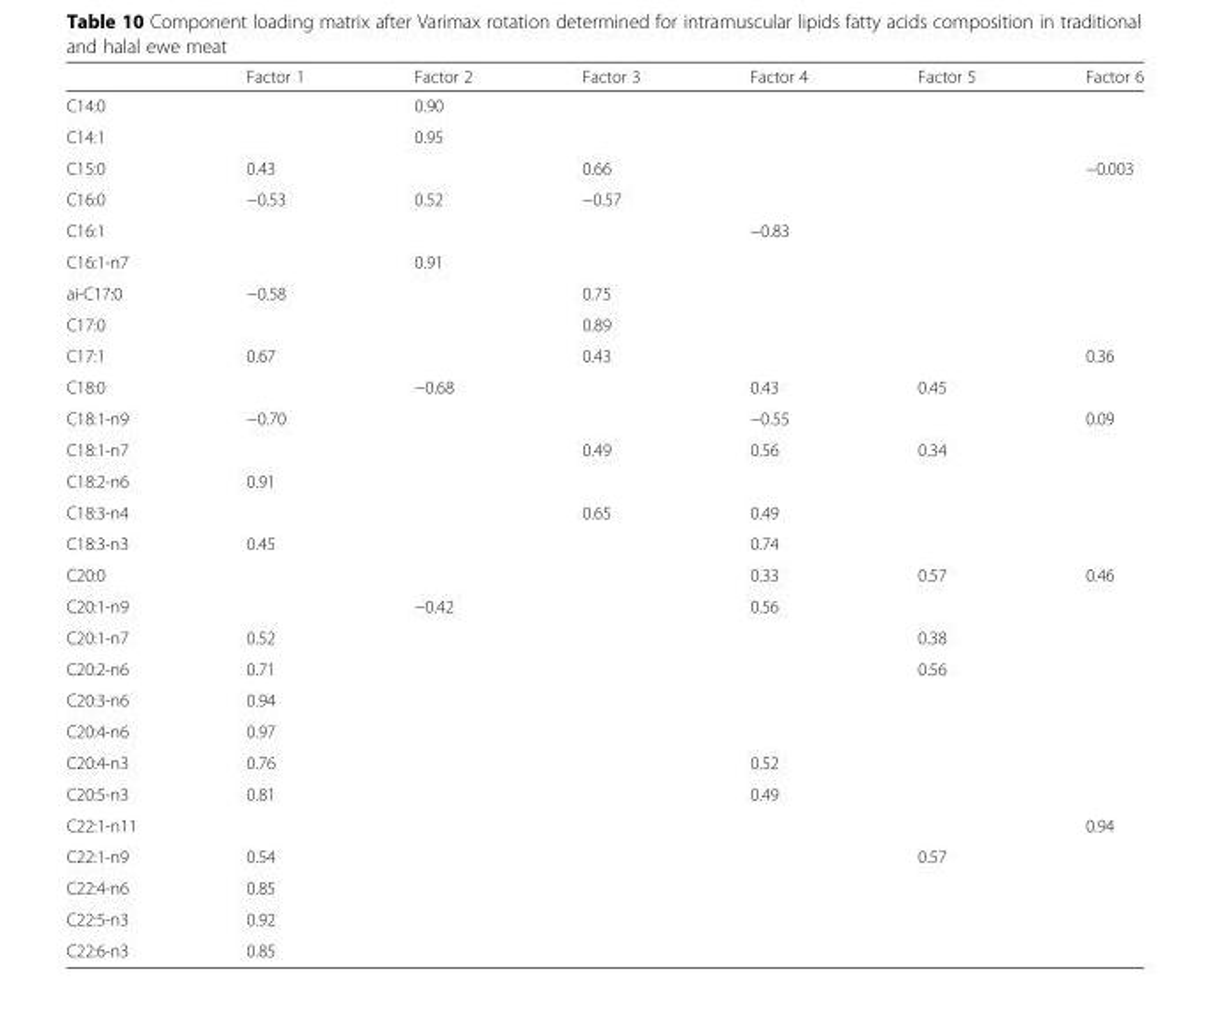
<table><thead><tr><td></td><td>Factor 1</td><td>Factor 2</td><td>Factor 3</td><td>Factor 4</td><td>Factor 5</td><td>Factor 6</td></tr></thead><tbody><tr><td>C14:0</td><td></td><td>0.90</td><td></td><td></td><td></td><td></td></tr><tr><td>C14:1</td><td></td><td>0.95</td><td></td><td></td><td></td><td></td></tr><tr><td>C15:0</td><td>0.43</td><td></td><td>0.66</td><td></td><td></td><td>−0.003</td></tr><tr><td>C16:0</td><td>−0.53</td><td>0.52</td><td>−0.57</td><td></td><td></td><td></td></tr><tr><td>C16:1</td><td></td><td></td><td></td><td>−0.83</td><td></td><td></td></tr><tr><td>C16:1-n7</td><td></td><td>0.91</td><td></td><td></td><td></td><td></td></tr><tr><td>ai-C17:0</td><td>−0.58</td><td></td><td>0.75</td><td></td><td></td><td></td></tr><tr><td>C17:0</td><td></td><td></td><td>0.89</td><td></td><td></td><td></td></tr><tr><td>C17:1</td><td>0.67</td><td></td><td>0.43</td><td></td><td></td><td>0.36</td></tr><tr><td>C18:0</td><td></td><td>−0.68</td><td></td><td>0.43</td><td>0.45</td><td></td></tr><tr><td>C18:1-n9</td><td>−0.70</td><td></td><td></td><td>−0.55</td><td></td><td>0.09</td></tr><tr><td>C18:1-n7</td><td></td><td></td><td>0.49</td><td>0.56</td><td>0.34</td><td></td></tr><tr><td>C18:2-n6</td><td>0.91</td><td></td><td></td><td></td><td></td><td></td></tr><tr><td>C18:3-n4</td><td></td><td></td><td>0.65</td><td>0.49</td><td></td><td></td></tr><tr><td>C18:3-n3</td><td>0.45</td><td></td><td></td><td>0.74</td><td></td><td></td></tr><tr><td>C20:0</td><td></td><td></td><td></td><td>0.33</td><td>0.57</td><td>0.46</td></tr><tr><td>C20:1-n9</td><td></td><td>−0.42</td><td></td><td>0.56</td><td></td><td></td></tr><tr><td>C20:1-n7</td><td>0.52</td><td></td><td></td><td></td><td>0.38</td><td></td></tr><tr><td>C20:2-n6</td><td>0.71</td><td></td><td></td><td></td><td>0.56</td><td></td></tr><tr><td>C20:3-n6</td><td>0.94</td><td></td><td></td><td></td><td></td><td></td></tr><tr><td>C20:4-n6</td><td>0.97</td><td></td><td></td><td></td><td></td><td></td></tr><tr><td>C20:4-n3</td><td>0.76</td><td></td><td></td><td>0.52</td><td></td><td></td></tr><tr><td>C20:5-n3</td><td>0.81</td><td></td><td></td><td>0.49</td><td></td><td></td></tr><tr><td>C22:1-n11</td><td></td><td></td><td></td><td></td><td></td><td>0.94</td></tr><tr><td>C22:1-n9</td><td>0.54</td><td></td><td></td><td></td><td>0.57</td><td></td></tr><tr><td>C22:4-n6</td><td>0.85</td><td></td><td></td><td></td><td></td><td></td></tr><tr><td>C22:5-n3</td><td>0.92</td><td></td><td></td><td></td><td></td><td></td></tr><tr><td>C22:6-n3</td><td>0.85</td><td></td><td></td><td></td><td></td><td></td></tr></tbody></table>